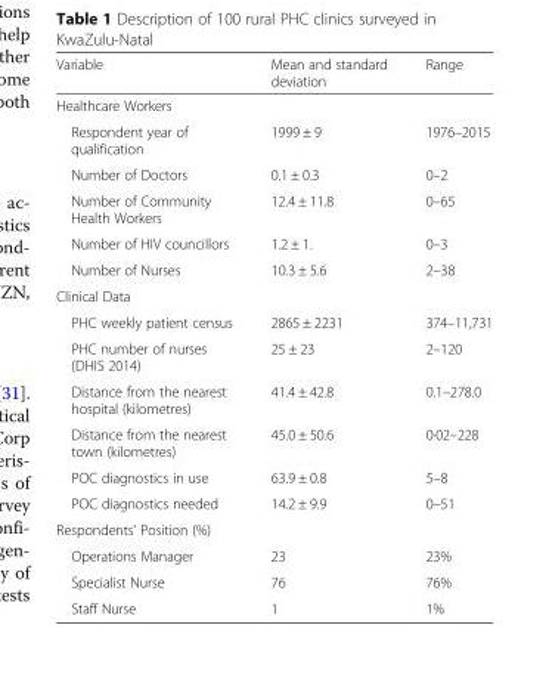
<table><thead><tr><td>Variable</td><td>Mean and standard deviation</td><td>Range</td></tr></thead><tbody><tr><td colspan="3">Healthcare Workers</td></tr><tr><td>Respondent year of qualification</td><td>1999 ± 9</td><td>1976–2015</td></tr><tr><td>Number of Doctors</td><td>0.1 ± 0.3</td><td>0–2</td></tr><tr><td>Number of Community Health Workers</td><td>12.4 ± 11.8</td><td>0–65</td></tr><tr><td>Number of HIV councillors</td><td>1.2 ± 1.</td><td>0–3</td></tr><tr><td>Number of Nurses</td><td>10.3 ± 5.6</td><td>2–38</td></tr><tr><td colspan="3">Clinical Data</td></tr><tr><td>PHC weekly patient census</td><td>2865 ± 2231</td><td>374–11,731</td></tr><tr><td>PHC number of nurses (DHIS 2014)</td><td>25 ± 23</td><td>2–120</td></tr><tr><td>Distance from the nearest hospital (kilometres)</td><td>41.4 ± 42.8</td><td>0.1–278.0</td></tr><tr><td>Distance from the nearest town (kilometres)</td><td>45.0 ± 50.6</td><td>0·02–228</td></tr><tr><td>POC diagnostics in use</td><td>63.9 ± 0.8</td><td>5–8</td></tr><tr><td>POC diagnostics needed</td><td>14.2 ± 9.9</td><td>0–51</td></tr><tr><td colspan="3">Respondents’ Position (%)</td></tr><tr><td>Operations Manager</td><td>23</td><td>23%</td></tr><tr><td>Specialist Nurse</td><td>76</td><td>76%</td></tr><tr><td>Staff Nurse</td><td>1</td><td>1%</td></tr></tbody></table>